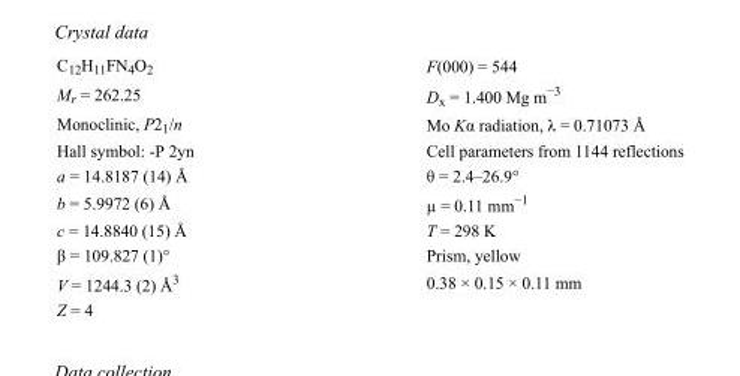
<table><tbody><tr><td>C<sub>12</sub>H<sub>11</sub>FN<sub>4</sub>O<sub>2</sub></td><td>F(000) = 544</td></tr><tr><td>M<sub>r</sub> = 262.25</td><td>D<sub>x</sub> = 1.400 Mg m<sup>−3</sup></td></tr><tr><td>Monoclinic, P2<sub>1</sub>/n</td><td>Mo Kα radiation, λ = 0.71073 Å</td></tr><tr><td>Hall symbol: -P 2yn</td><td>Cell parameters from 1144 reflections</td></tr><tr><td>a = 14.8187 (14) Å</td><td>θ = 2.4–26.9°</td></tr><tr><td>b = 5.9972 (6) Å</td><td>µ = 0.11 mm<sup>−1</sup></td></tr><tr><td>c = 14.8840 (15) Å</td><td>T = 298 K</td></tr><tr><td>β = 109.827 (1)°</td><td>Prism, yellow</td></tr><tr><td>V = 1244.3 (2) Å<sup>3</sup></td><td>0.38 × 0.15 × 0.11 mm</td></tr><tr><td>Z = 4</td><td></td></tr></tbody></table>